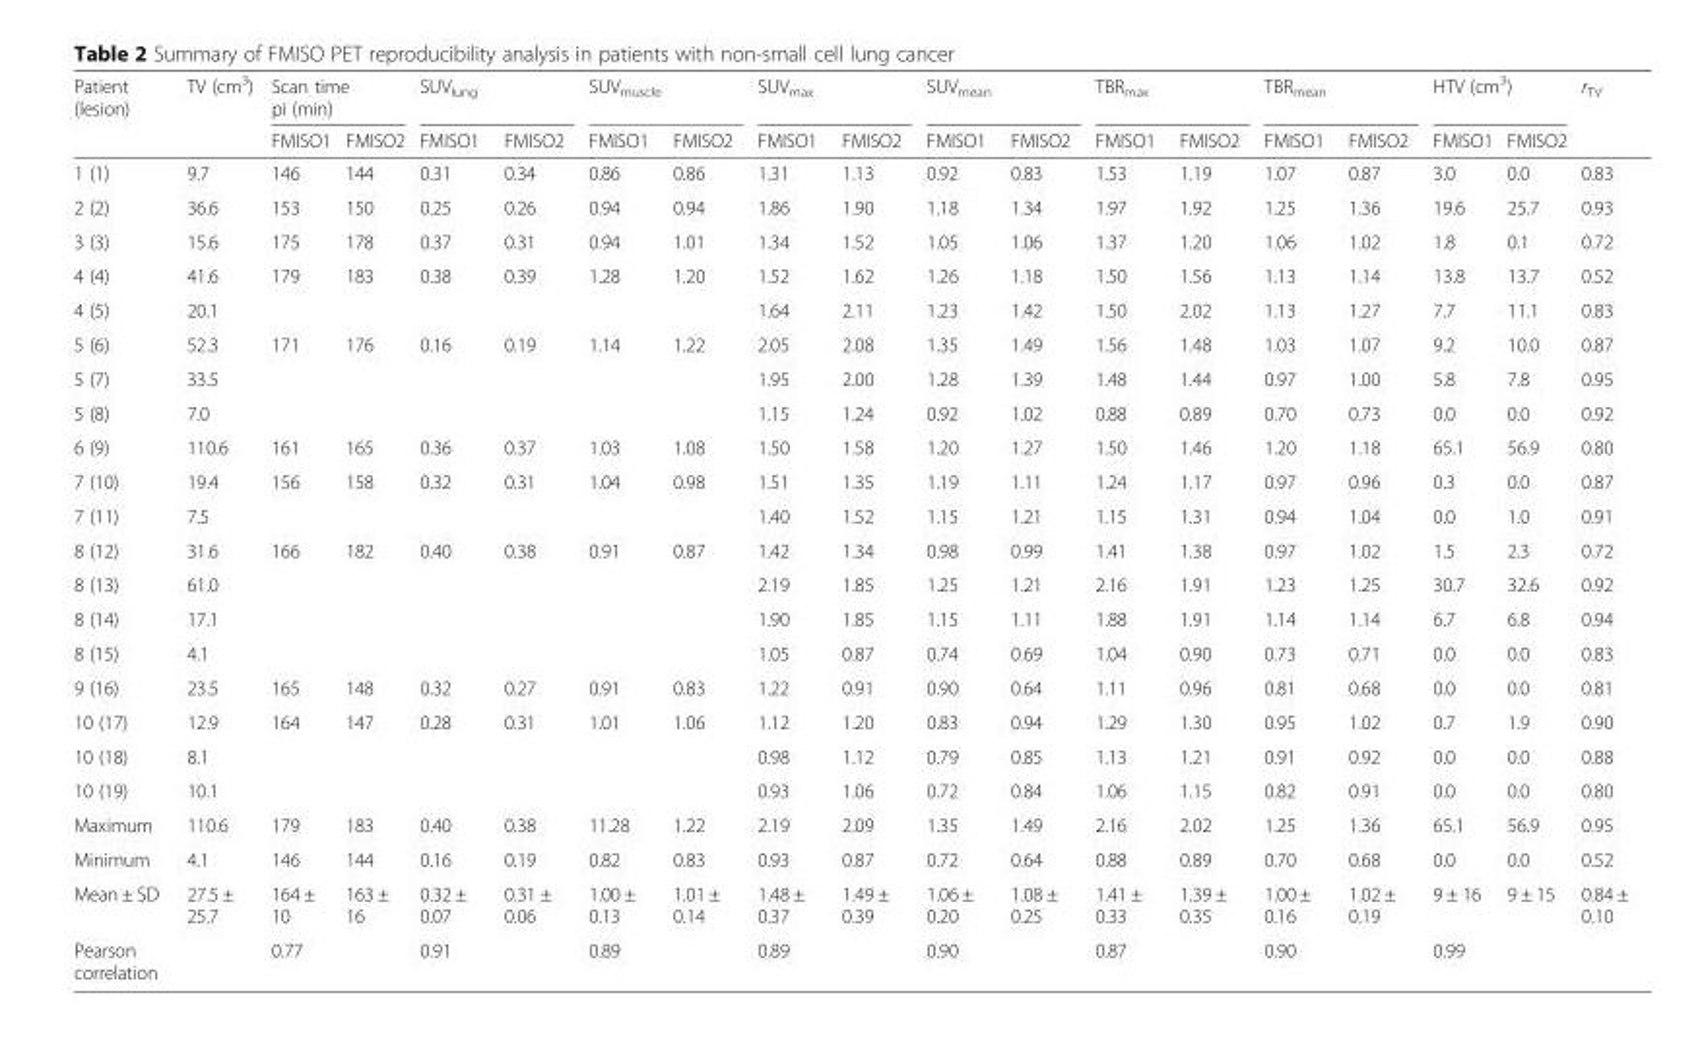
<table><thead><tr><td rowspan="2">Patient (lesion)</td><td rowspan="2">TV (cm<sup>3</sup>)</td><td colspan="2">Scan time pi (min)</td><td colspan="2">SUV<sub>lung</sub></td><td colspan="2">SUV<sub>muscle</sub></td><td colspan="2">SUV<sub>max</sub></td><td colspan="2">SUV<sub>mean</sub></td><td colspan="2">TBR<sub>max</sub></td><td colspan="2">TBR<sub>mean</sub></td><td colspan="2">HTV (cm<sup>3</sup>)</td><td rowspan="2">r<sub>TV</sub></td></tr><tr><td>FMISO1</td><td>FMISO2</td><td>FMISO1</td><td>FMISO2</td><td>FMISO1</td><td>FMISO2</td><td>FMISO1</td><td>FMISO2</td><td>FMISO1</td><td>FMISO2</td><td>FMISO1</td><td>FMISO2</td><td>FMISO1</td><td>FMISO2</td><td>FMISO1</td><td>FMISO2</td></tr></thead><tbody><tr><td>1 (1)</td><td>9.7</td><td>146</td><td>144</td><td>0.31</td><td>0.34</td><td>0.86</td><td>0.86</td><td>1.31</td><td>1.13</td><td>0.92</td><td>0.83</td><td>1.53</td><td>1.19</td><td>1.07</td><td>0.87</td><td>3.0</td><td>0.0</td><td>0.83</td></tr><tr><td>2 (2)</td><td>36.6</td><td>153</td><td>150</td><td>0.25</td><td>0.26</td><td>0.94</td><td>0.94</td><td>1.86</td><td>1.90</td><td>1.18</td><td>1.34</td><td>1.97</td><td>1.92</td><td>1.25</td><td>1.36</td><td>19.6</td><td>25.7</td><td>0.93</td></tr><tr><td>3 (3)</td><td>15.6</td><td>175</td><td>178</td><td>0.37</td><td>0.31</td><td>0.94</td><td>1.01</td><td>1.34</td><td>1.52</td><td>1.05</td><td>1.06</td><td>1.37</td><td>1.20</td><td>1.06</td><td>1.02</td><td>1.8</td><td>0.1</td><td>0.72</td></tr><tr><td>4 (4)</td><td>41.6</td><td>179</td><td>183</td><td>0.38</td><td>0.39</td><td>1.28</td><td>1.20</td><td>1.52</td><td>1.62</td><td>1.26</td><td>1.18</td><td>1.50</td><td>1.56</td><td>1.13</td><td>1.14</td><td>13.8</td><td>13.7</td><td>0.52</td></tr><tr><td>4 (5)</td><td>20.1</td><td></td><td></td><td></td><td></td><td></td><td></td><td>1.64</td><td>2.11</td><td>1.23</td><td>1.42</td><td>1.50</td><td>2.02</td><td>1.13</td><td>1.27</td><td>7.7</td><td>11.1</td><td>0.83</td></tr><tr><td>5 (6)</td><td>52.3</td><td>171</td><td>176</td><td>0.16</td><td>0.19</td><td>1.14</td><td>1.22</td><td>2.05</td><td>2.08</td><td>1.35</td><td>1.49</td><td>1.56</td><td>1.48</td><td>1.03</td><td>1.07</td><td>9.2</td><td>10.0</td><td>0.87</td></tr><tr><td>5 (7)</td><td>33.5</td><td></td><td></td><td></td><td></td><td></td><td></td><td>1.95</td><td>2.00</td><td>1.28</td><td>1.39</td><td>1.48</td><td>1.44</td><td>0.97</td><td>1.00</td><td>5.8</td><td>7.8</td><td>0.95</td></tr><tr><td>5 (8)</td><td>7.0</td><td></td><td></td><td></td><td></td><td></td><td></td><td>1.15</td><td>1.24</td><td>0.92</td><td>1.02</td><td>0.88</td><td>0.89</td><td>0.70</td><td>0.73</td><td>0.0</td><td>0.0</td><td>0.92</td></tr><tr><td>6 (9)</td><td>110.6</td><td>161</td><td>165</td><td>0.36</td><td>0.37</td><td>1.03</td><td>1.08</td><td>1.50</td><td>1.58</td><td>1.20</td><td>1.27</td><td>1.50</td><td>1.46</td><td>1.20</td><td>1.18</td><td>65.1</td><td>56.9</td><td>0.80</td></tr><tr><td>7 (10)</td><td>19.4</td><td>156</td><td>158</td><td>0.32</td><td>0.31</td><td>1.04</td><td>0.98</td><td>1.51</td><td>1.35</td><td>1.19</td><td>1.11</td><td>1.24</td><td>1.17</td><td>0.97</td><td>0.96</td><td>0.3</td><td>0.0</td><td>0.87</td></tr><tr><td>7 (11)</td><td>7.5</td><td></td><td></td><td></td><td></td><td></td><td></td><td>1.40</td><td>1.52</td><td>1.15</td><td>1.21</td><td>1.15</td><td>1.31</td><td>0.94</td><td>1.04</td><td>0.0</td><td>1.0</td><td>0.91</td></tr><tr><td>8 (12)</td><td>31.6</td><td>166</td><td>182</td><td>0.40</td><td>0.38</td><td>0.91</td><td>0.87</td><td>1.42</td><td>1.34</td><td>0.98</td><td>0.99</td><td>1.41</td><td>1.38</td><td>0.97</td><td>1.02</td><td>1.5</td><td>2.3</td><td>0.72</td></tr><tr><td>8 (13)</td><td>61.0</td><td></td><td></td><td></td><td></td><td></td><td></td><td>2.19</td><td>1.85</td><td>1.25</td><td>1.21</td><td>2.16</td><td>1.91</td><td>1.23</td><td>1.25</td><td>30.7</td><td>32.6</td><td>0.92</td></tr><tr><td>8 (14)</td><td>17.1</td><td></td><td></td><td></td><td></td><td></td><td></td><td>1.90</td><td>1.85</td><td>1.15</td><td>1.11</td><td>1.88</td><td>1.91</td><td>1.14</td><td>1.14</td><td>6.7</td><td>6.8</td><td>0.94</td></tr><tr><td>8 (15)</td><td>4.1</td><td></td><td></td><td></td><td></td><td></td><td></td><td>1.05</td><td>0.87</td><td>0.74</td><td>0.69</td><td>1.04</td><td>0.90</td><td>0.73</td><td>0.71</td><td>0.0</td><td>0.0</td><td>0.83</td></tr><tr><td>9 (16)</td><td>23.5</td><td>165</td><td>148</td><td>0.32</td><td>0.27</td><td>0.91</td><td>0.83</td><td>1.22</td><td>0.91</td><td>0.90</td><td>0.64</td><td>1.11</td><td>0.96</td><td>0.81</td><td>0.68</td><td>0.0</td><td>0.0</td><td>0.81</td></tr><tr><td>10 (17)</td><td>12.9</td><td>164</td><td>147</td><td>0.28</td><td>0.31</td><td>1.01</td><td>1.06</td><td>1.12</td><td>1.20</td><td>0.83</td><td>0.94</td><td>1.29</td><td>1.30</td><td>0.95</td><td>1.02</td><td>0.7</td><td>1.9</td><td>0.90</td></tr><tr><td>10 (18)</td><td>8.1</td><td></td><td></td><td></td><td></td><td></td><td></td><td>0.98</td><td>1.12</td><td>0.79</td><td>0.85</td><td>1.13</td><td>1.21</td><td>0.91</td><td>0.92</td><td>0.0</td><td>0.0</td><td>0.88</td></tr><tr><td>10 (19)</td><td>10.1</td><td></td><td></td><td></td><td></td><td></td><td></td><td>0.93</td><td>1.06</td><td>0.72</td><td>0.84</td><td>1.06</td><td>1.15</td><td>0.82</td><td>0.91</td><td>0.0</td><td>0.0</td><td>0.80</td></tr><tr><td>Maximum</td><td>110.6</td><td>179</td><td>183</td><td>0.40</td><td>0.38</td><td>11.28</td><td>1.22</td><td>2.19</td><td>2.09</td><td>1.35</td><td>1.49</td><td>2.16</td><td>2.02</td><td>1.25</td><td>1.36</td><td>65.1</td><td>56.9</td><td>0.95</td></tr><tr><td>Minimum</td><td>4.1</td><td>146</td><td>144</td><td>0.16</td><td>0.19</td><td>0.82</td><td>0.83</td><td>0.93</td><td>0.87</td><td>0.72</td><td>0.64</td><td>0.88</td><td>0.89</td><td>0.70</td><td>0.68</td><td>0.0</td><td>0.0</td><td>0.52</td></tr><tr><td>Mean ± SD</td><td>27.5 ± 25.7</td><td>164 ± 10</td><td>163 ± 16</td><td>0.32 ± 0.07</td><td>0.31 ± 0.06</td><td>1.00 ± 0.13</td><td>1.01 ± 0.14</td><td>1.48 ± 0.37</td><td>1.49 ± 0.39</td><td>1.06 ± 0.20</td><td>1.08 ± 0.25</td><td>1.41 ± 0.33</td><td>1.39 ± 0.35</td><td>1.00 ± 0.16</td><td>1.02 ± 0.19</td><td>9 ± 16</td><td>9 ± 15</td><td>0.84 ± 0.10</td></tr><tr><td>Pearson correlation</td><td></td><td colspan="2">0.77</td><td colspan="2">0.91</td><td colspan="2">0.89</td><td colspan="2">0.89</td><td colspan="2">0.90</td><td colspan="2">0.87</td><td colspan="2">0.90</td><td colspan="2">0.99</td><td></td></tr></tbody></table>